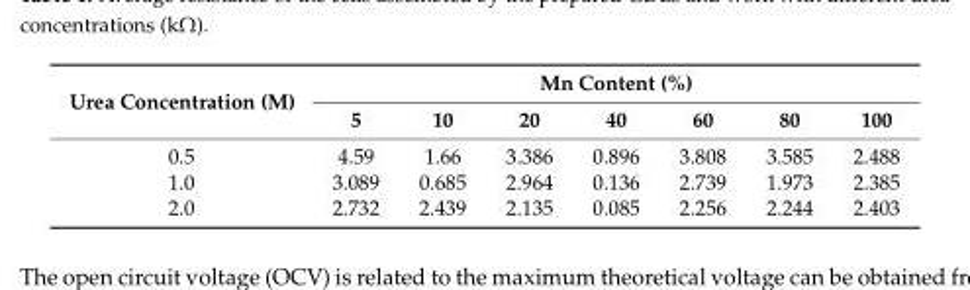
<table><thead><tr><td rowspan="2">Urea Concentration (M)</td><td colspan="7">Mn Content (%)</td></tr><tr><td>5</td><td>10</td><td>20</td><td>40</td><td>60</td><td>80</td><td>100</td></tr></thead><tbody><tr><td>0.5</td><td>4.59</td><td>1.66</td><td>3.386</td><td>0.896</td><td>3.808</td><td>3.585</td><td>2.488</td></tr><tr><td>1.0</td><td>3.089</td><td>0.685</td><td>2.964</td><td>0.136</td><td>2.739</td><td>1.973</td><td>2.385</td></tr><tr><td>2.0</td><td>2.732</td><td>2.439</td><td>2.135</td><td>0.085</td><td>2.256</td><td>2.244</td><td>2.403</td></tr></tbody></table>